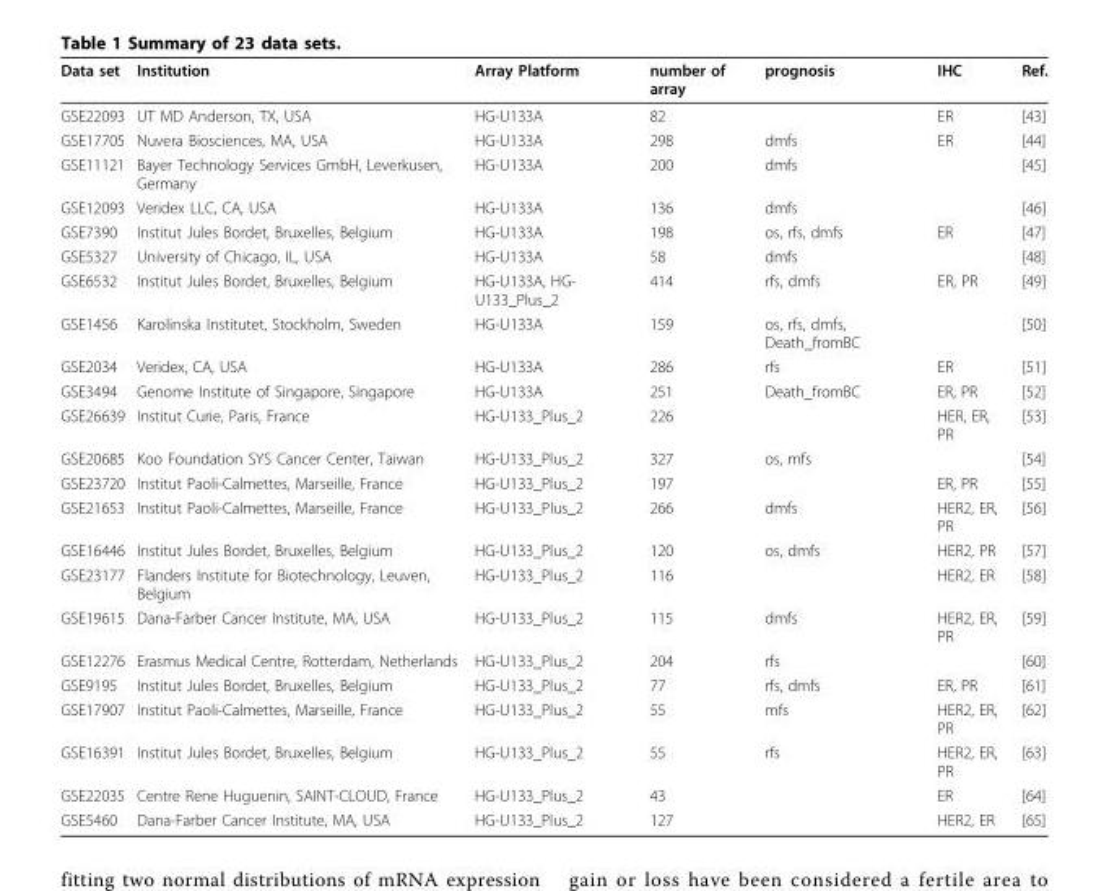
<table><thead><tr><td>Data set</td><td>Institution</td><td>Array Platform</td><td>number of array</td><td>prognosis</td><td>IHC</td><td>Ref.</td></tr></thead><tbody><tr><td>GSE22093</td><td>UT MD Anderson, TX, USA</td><td>HG-U133A</td><td>82</td><td></td><td>ER</td><td>[43]</td></tr><tr><td>GSE17705</td><td>Nuvera Biosciences, MA, USA</td><td>HG-U133A</td><td>298</td><td>dmfs</td><td>ER</td><td>[44]</td></tr><tr><td>GSE11121</td><td>Bayer Technology Services GmbH, Leverkusen, Germany</td><td>HG-U133A</td><td>200</td><td>dmfs</td><td></td><td>[45]</td></tr><tr><td>GSE12093</td><td>Veridex LLC, CA, USA</td><td>HG-U133A</td><td>136</td><td>dmfs</td><td></td><td>[46]</td></tr><tr><td>GSE7390</td><td>Institut Jules Bordet, Bruxelles, Belgium</td><td>HG-U133A</td><td>198</td><td>os, rfs, dmfs</td><td>ER</td><td>[47]</td></tr><tr><td>GSE5327</td><td>University of Chicago, IL, USA</td><td>HG-U133A</td><td>58</td><td>dmfs</td><td></td><td>[48]</td></tr><tr><td>GSE6532</td><td>Institut Jules Bordet, Bruxelles, Belgium</td><td>HG-U133A, HG- U133_Plus_2</td><td>414</td><td>rfs, dmfs</td><td>ER, PR</td><td>[49]</td></tr><tr><td>GSE1456</td><td>Karolinska Institutet, Stockholm, Sweden</td><td>HG-U133A</td><td>159</td><td>os, rfs, dmfs, Death_fromBC</td><td></td><td>[50]</td></tr><tr><td>GSE2034</td><td>Veridex, CA, USA</td><td>HG-U133A</td><td>286</td><td>rfs</td><td>ER</td><td>[51]</td></tr><tr><td>GSE3494</td><td>Genome Institute of Singapore, Singapore</td><td>HG-U133A</td><td>251</td><td>Death_fromBC</td><td>ER, PR</td><td>[52]</td></tr><tr><td>GSE26639</td><td>Institut Curie, Paris, France</td><td>HG-U133_Plus_2</td><td>226</td><td></td><td>HER, ER, PR</td><td>[53]</td></tr><tr><td>GSE20685</td><td>Koo Foundation SYS Cancer Center, Taiwan</td><td>HG-U133_Plus_2</td><td>327</td><td>os, mfs</td><td></td><td>[54]</td></tr><tr><td>GSE23720</td><td>Institut Paoli-Calmettes, Marseille, France</td><td>HG-U133_Plus_2</td><td>197</td><td></td><td>ER, PR</td><td>[55]</td></tr><tr><td>GSE21653</td><td>Institut Paoli-Calmettes, Marseille, France</td><td>HG-U133_Plus_2</td><td>266</td><td>dmfs</td><td>HER2, ER, PR</td><td>[56]</td></tr><tr><td>GSE16446</td><td>Institut Jules Bordet, Bruxelles, Belgium</td><td>HG-U133_Plus_2</td><td>120</td><td>os, dmfs</td><td>HER2, PR</td><td>[57]</td></tr><tr><td>GSE23177</td><td>Flanders Institute for Biotechnology, Leuven, Belgium</td><td>HG-U133_Plus_2</td><td>116</td><td></td><td>HER2, ER</td><td>[58]</td></tr><tr><td>GSE19615</td><td>Dana-Farber Cancer Institute, MA, USA</td><td>HG-U133_Plus_2</td><td>115</td><td>dmfs</td><td>HER2, ER, PR</td><td>[59]</td></tr><tr><td>GSE12276</td><td>Erasmus Medical Centre, Rotterdam, Netherlands</td><td>HG-U133_Plus_2</td><td>204</td><td>rfs</td><td></td><td>[60]</td></tr><tr><td>GSE9195</td><td>Institut Jules Bordet, Bruxelles, Belgium</td><td>HG-U133_Plus_2</td><td>77</td><td>rfs, dmfs</td><td>ER, PR</td><td>[61]</td></tr><tr><td>GSE17907</td><td>Institut Paoli-Calmettes, Marseille, France</td><td>HG-U133_Plus_2</td><td>55</td><td>mfs</td><td>HER2, ER, PR</td><td>[62]</td></tr><tr><td>GSE16391</td><td>Institut Jules Bordet, Bruxelles, Belgium</td><td>HG-U133_Plus_2</td><td>55</td><td>rfs</td><td>HER2, ER, PR</td><td>[63]</td></tr><tr><td>GSE22035</td><td>Centre Rene Huguenin, SAINT-CLOUD, France</td><td>HG-U133_Plus_2</td><td>43</td><td></td><td>ER</td><td>[64]</td></tr><tr><td>GSE5460</td><td>Dana-Farber Cancer Institute, MA, USA</td><td>HG-U133_Plus_2</td><td>127</td><td></td><td>HER2, ER</td><td>[65]</td></tr></tbody></table>